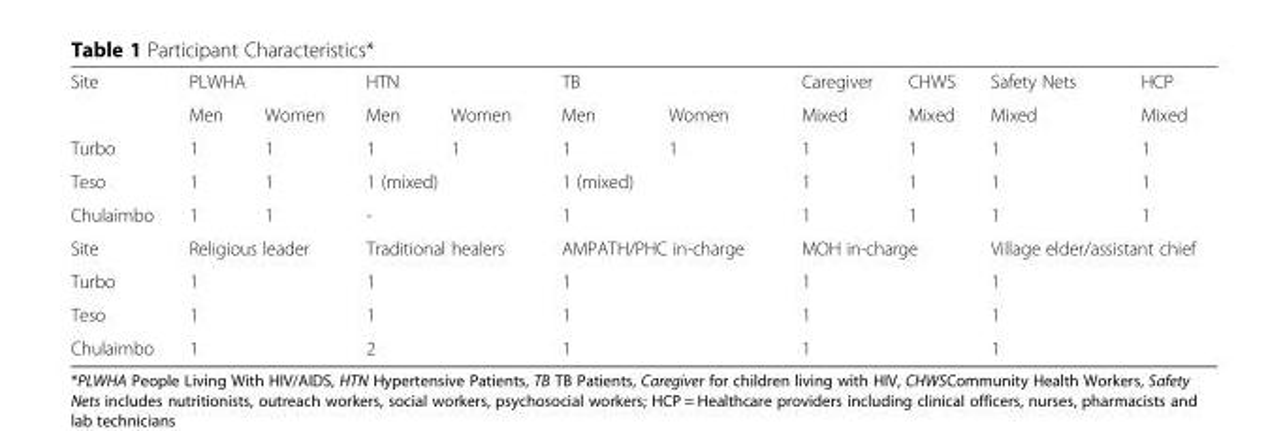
<table><tbody><tr><td rowspan="2">Site</td><td colspan="2">PLWHA</td><td colspan="2">HTN</td><td colspan="2">TB</td><td>Caregiver</td><td>CHWS</td><td>Safety Nets</td><td>HCP</td></tr><tr><td>Men</td><td>Women</td><td>Men</td><td>Women</td><td>Men</td><td>Women</td><td>Mixed</td><td>Mixed</td><td>Mixed</td><td>Mixed</td></tr><tr><td>Turbo</td><td>1</td><td>1</td><td>1</td><td>1</td><td>1</td><td>1</td><td>1</td><td>1</td><td>1</td><td>1</td></tr><tr><td>Teso</td><td>1</td><td>1</td><td colspan="2">1 (mixed)</td><td colspan="2">1 (mixed)</td><td>1</td><td>1</td><td>1</td><td>1</td></tr><tr><td>Chulaimbo</td><td>1</td><td>1</td><td colspan="2">-</td><td colspan="2">1</td><td>1</td><td>1</td><td>1</td><td>1</td></tr><tr><td>Site</td><td colspan="2">Religious leader</td><td colspan="2">Traditional healers</td><td colspan="2">AMPATH/PHC in-charge</td><td colspan="2">MOH in-charge</td><td colspan="2">Village elder/assistant chief</td></tr><tr><td>Turbo</td><td colspan="2">1</td><td colspan="2">1</td><td colspan="2">1</td><td colspan="2">1</td><td colspan="2">1</td></tr><tr><td>Teso</td><td colspan="2">1</td><td colspan="2">1</td><td colspan="2">1</td><td colspan="2">1</td><td colspan="2">1</td></tr><tr><td>Chulaimbo</td><td colspan="2">1</td><td colspan="2">2</td><td colspan="2">1</td><td colspan="2">1</td><td colspan="2">1</td></tr></tbody></table>